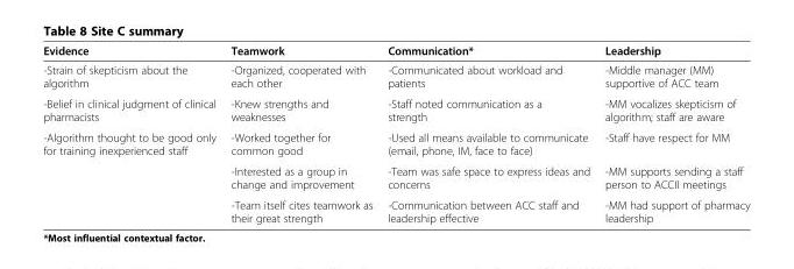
<table><thead><tr><td>Evidence</td><td>Teamwork</td><td>Communication*</td><td>Leadership</td></tr></thead><tbody><tr><td>-Strain of skepticism about the algorithm</td><td>-Organized, cooperated with each other</td><td>-Communicated about workload and patients</td><td>-Middle manager (MM) supportive of ACC team</td></tr><tr><td>-Belief in clinical judgment of clinical pharmacists</td><td>-Knew strengths and weaknesses</td><td>-Staff noted communication as a strength</td><td>-MM vocalizes skepticism of algorithm; staff are aware</td></tr><tr><td rowspan="3">-Algorithm thought to be good only for training inexperienced staff</td><td>-Worked together for common good</td><td>-Used all means available to communicate (email, phone, IM, face to face)</td><td>-Staff have respect for MM</td></tr><tr><td>-Interested as a group in change and improvement</td><td>-Team was safe space to express ideas and concerns</td><td>-MM supports sending a staff person to ACCII meetings</td></tr><tr><td>-Team itself cites teamwork as their great strength</td><td>-Communication between ACC staff and leadership effective</td><td>-MM had support of pharmacy leadership</td></tr></tbody></table>